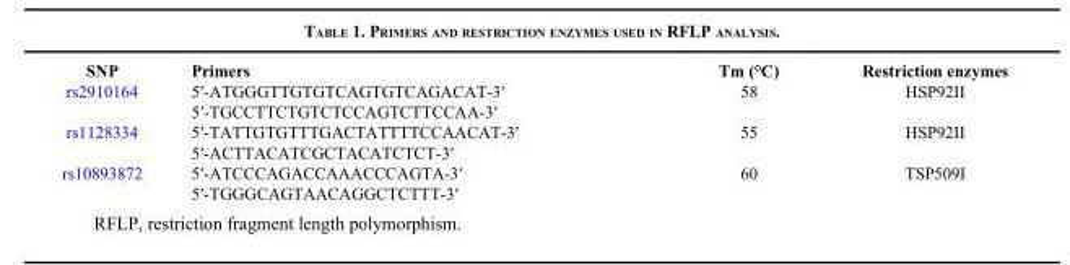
<table><thead><tr><td>SNP</td><td>Primers</td><td>Tm (°C)</td><td>Restriction enzymes</td></tr></thead><tbody><tr><td rowspan="2">rs2910164</td><td>5′-ATGGGTTGTGTCAGTGTCAGACAT-3′</td><td>58</td><td>HSP92II</td></tr><tr><td>5′-TGCCTTCTGTCTCCAGTCTTCCAA-3′</td><td></td><td></td></tr><tr><td rowspan="2">rs1128334</td><td>5′-TATTGTGTTTGACTATTTTCCAACAT-3′</td><td>55</td><td>HSP92II</td></tr><tr><td>5′-ACTTACATCGCTACATCTCT-3′</td><td></td><td></td></tr><tr><td rowspan="2">rs10893872</td><td>5′-ATCCCAGACCAAACCCAGTA-3′</td><td>60</td><td>TSP509I</td></tr><tr><td>5′-TGGGCAGTAACAGGCTCTTT-3′</td><td></td><td></td></tr></tbody></table>